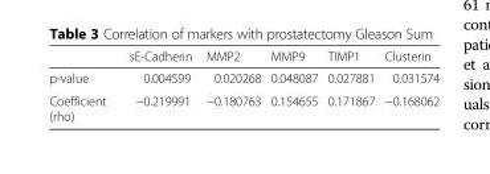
<table><thead><tr><td></td><td>sE-Cadherin</td><td>MMP2</td><td>MMP9</td><td>TIMP1</td><td>Clusterin</td></tr></thead><tbody><tr><td>p-value</td><td>0.004599</td><td>0.020268</td><td>0.048087</td><td>0.027881</td><td>0.031574</td></tr><tr><td>Coefficient (rho)</td><td>−0.219991</td><td>−0.180763</td><td>0.154655</td><td>0.171867</td><td>−0.168062</td></tr></tbody></table>